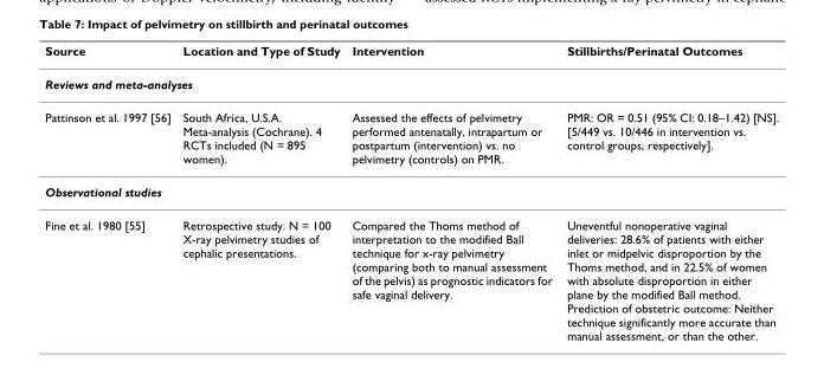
<table><thead><tr><td>Source</td><td>Location and Type of Study</td><td>Intervention</td><td>Stillbirths/Perinatal Outcomes</td></tr></thead><tbody><tr><td colspan="4">Reviews and meta-analyses</td></tr><tr><td>Pattinson et al. 1997 [56]</td><td>South Africa, U.S.A. Meta-analysis (Cochrane). 4 RCTs included (N = 895 women).</td><td>Assessed the effects of pelvimetry performed antenatally, intrapartum or postpartum (intervention) vs. no pelvimetry (controls) on PMR.</td><td>PMR: OR = 0.51 (95% CI: 0.18–1.42) [NS]. [5/449 vs. 10/446 in intervention vs. control groups, respectively].</td></tr><tr><td colspan="4">Observational studies</td></tr><tr><td>Fine et al. 1980 [55]</td><td>Retrospective study. N = 100 X-ray pelvimetry studies of cephalic presentations.</td><td>Compared the Thoms method of interpretation to the modified Ball technique for x-ray pelvimetry (comparing both to manual assessment of the pelvis) as prognostic indicators for safe vaginal delivery.</td><td>Uneventful nonoperative vaginal deliveries: 28.6% of patients with either inlet or midpelvic disproportion by the Thoms method, and in 22.5% of women with absolute disproportion in either plane by the modified Ball method. Prediction of obstetric outcome: Neither technique significantly more accurate than manual assessment, or than the other.</td></tr></tbody></table>